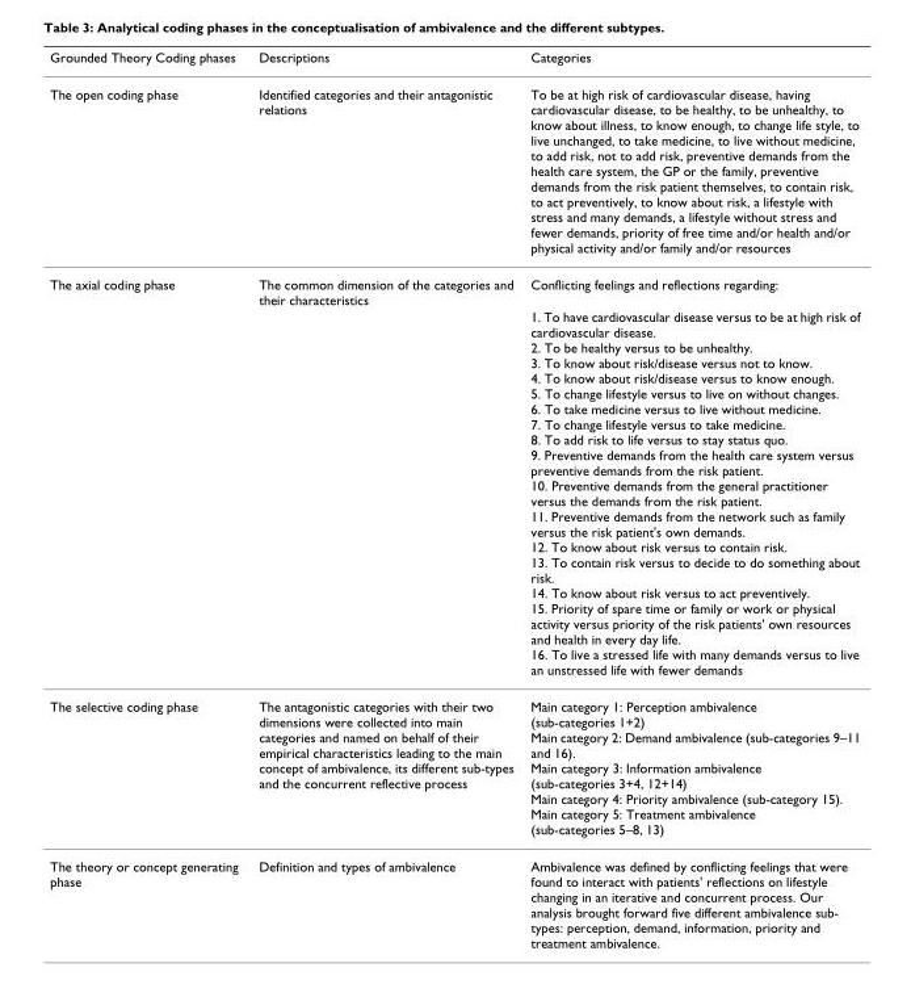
<table><thead><tr><td>Grounded Theory Coding phases</td><td>Descriptions</td><td>Categories</td></tr></thead><tbody><tr><td>The open coding phase</td><td>Identified categories and their antagonistic relations</td><td>To be at high risk of cardiovascular disease, having cardiovascular disease, to be healthy, to be unhealthy, to know about illness, to know enough, to change life style, to live unchanged, to take medicine, to live without medicine, to add risk, not to add risk, preventive demands from the health care system, the GP or the family, preventive demands from the risk patient themselves, to contain risk, to act preventively, to know about risk, a lifestyle with stress and many demands, a lifestyle without stress and fewer demands, priority of free time and/or health and/or physical activity and/or family and/or resources</td></tr><tr><td rowspan="2">The axial coding phase</td><td>The common dimension of the categories and their characteristics</td><td>Conflicting feelings and reflections regarding:</td></tr><tr><td></td><td>1. To have cardiovascular disease versus to be at high risk of cardiovascular disease. 2. To be healthy versus to be unhealthy. 3. To know about risk/disease versus not to know. 4. To know about risk/disease versus to know enough. 5. To change lifestyle versus to live on without changes. 6. To take medicine versus to live without medicine. 7. To change lifestyle versus to take medicine. 8. To add risk to life versus to stay status quo. 9. Preventive demands from the health care system versus preventive demands from the risk patient. 10. Preventive demands from the general practitioner versus the demands from the risk patient. 11. Preventive demands from the network such as family versus the risk patient&#x27;s own demands. 12. To know about risk versus to contain risk. 13. To contain risk versus to decide to do something about risk. 14. To know about risk versus to act preventively. 15. Priority of spare time or family or work or physical activity versus priority of the risk patients&#x27; own resources and health in every day life. 16. To live a stressed life with many demands versus to live an unstressed life with fewer demands</td></tr><tr><td>The selective coding phase</td><td>The antagonistic categories with their two dimensions were collected into main categories and named on behalf of their empirical characteristics leading to the main concept of ambivalence, its different sub-types and the concurrent reflective process</td><td>Main category 1: Perception ambivalence (sub-categories 1+2) Main category 2: Demand ambivalence (sub-categories 9–11 and 16). Main category 3: Information ambivalence (sub-categories 3+4, 12+14) Main category 4: Priority ambivalence (sub-category 15). Main category 5: Treatment ambivalence (sub-categories 5–8, 13)</td></tr><tr><td>The theory or concept generating phase</td><td>Definition and types of ambivalence</td><td>Ambivalence was defined by conflicting feelings that were found to interact with patients&#x27; reflections on lifestyle changing in an iterative and concurrent process. Our analysis brought forward five different ambivalence sub- types: perception, demand, information, priority and treatment ambivalence.</td></tr></tbody></table>